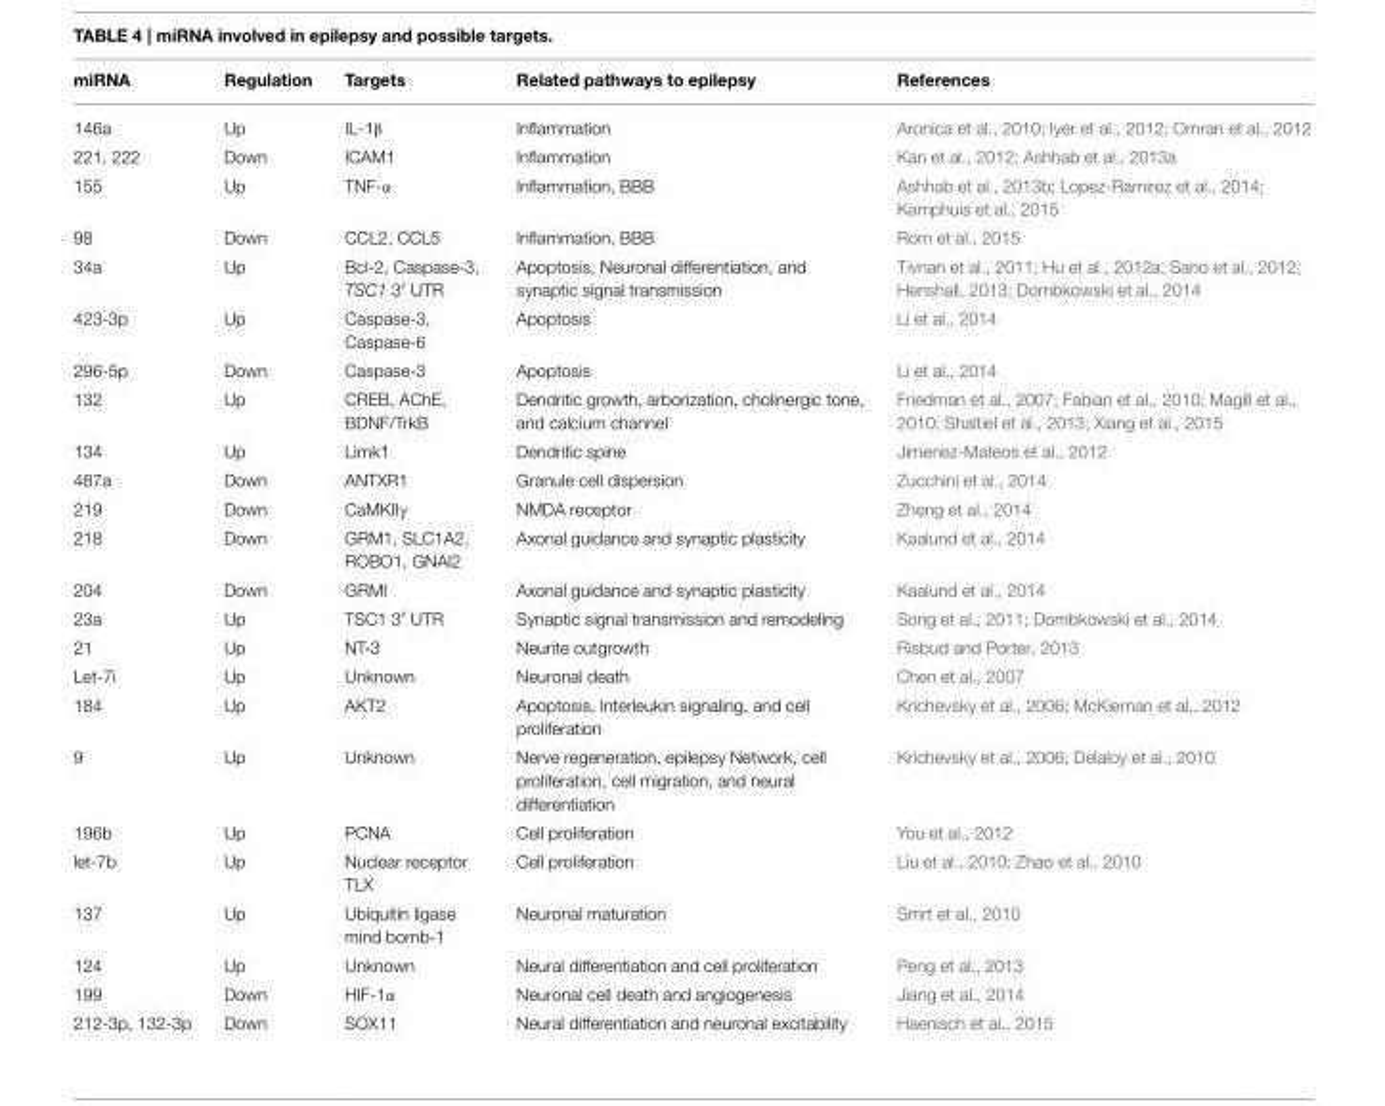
<table><thead><tr><td>miRNA</td><td>Regulation</td><td>Targets</td><td>Related pathways to epilepsy</td><td>References</td></tr></thead><tbody><tr><td>146a</td><td>Up</td><td>IL-1β</td><td>Inflammation</td><td>Aronica et al., 2010; Iyer et al., 2012; Omran et al., 2012</td></tr><tr><td>221, 222</td><td>Down</td><td>ICAM1</td><td>Inflammation</td><td>Kan et al., 2012; Ashhab et al., 2013a</td></tr><tr><td>155</td><td>Up</td><td>TNF-α</td><td>Inflammation, BBB</td><td>Ashhab et al., 2013b; Lopez-Ramirez et al., 2014; Kamphuis et al., 2015</td></tr><tr><td>98</td><td>Down</td><td>CCL2, CCL5</td><td>Inflammation, BBB</td><td>Rom et al., 2015</td></tr><tr><td>34a</td><td>Up</td><td>Bcl-2, Caspase-3, TSC1 3′ UTR</td><td>Apoptosis, Neuronal differentiation, and synaptic signal transmission</td><td>Tivnan et al., 2011; Hu et al., 2012a; Sano et al., 2012; Henshall, 2013; Dombkowski et al., 2014</td></tr><tr><td>423-3p</td><td>Up</td><td>Caspase-3, Caspase-6</td><td>Apoptosis</td><td>Li et al., 2014</td></tr><tr><td>296-5p</td><td>Down</td><td>Caspase-3</td><td>Apoptosis</td><td>Li et al., 2014</td></tr><tr><td>132</td><td>Up</td><td>CREB, AChE, BDNF/TrkB</td><td>Dendritic growth, arborization, cholinergic tone, and calcium channel</td><td>Friedman et al., 2007; Fabian et al., 2010; Magill et al., 2010; Shaltiel et al., 2013; Xiang et al., 2015</td></tr><tr><td>134</td><td>Up</td><td>Limk1</td><td>Dendritic spine</td><td>Jimenez-Mateos et al., 2012</td></tr><tr><td>487a</td><td>Down</td><td>ANTXR1</td><td>Granule cell dispersion</td><td>Zucchini et al., 2014</td></tr><tr><td>219</td><td>Down</td><td>CaMKIIγ</td><td>NMDA receptor</td><td>Zheng et al., 2014</td></tr><tr><td>218</td><td>Down</td><td>GRM1, SLC1A2, ROBO1, GNAI2</td><td>Axonal guidance and synaptic plasticity</td><td>Kaalund et al., 2014</td></tr><tr><td>204</td><td>Down</td><td>GRMI</td><td>Axonal guidance and synaptic plasticity</td><td>Kaalund et al., 2014</td></tr><tr><td>23a</td><td>Up</td><td>TSC1 3′ UTR</td><td>Synaptic signal transmission and remodeling</td><td>Song et al., 2011; Dombkowski et al., 2014</td></tr><tr><td>21</td><td>Up</td><td>NT-3</td><td>Neurite outgrowth</td><td>Risbud and Porter, 2013</td></tr><tr><td>Let-7i</td><td>Up</td><td>Unknown</td><td>Neuronal death</td><td>Chen et al., 2007</td></tr><tr><td>184</td><td>Up</td><td>AKT2</td><td>Apoptosis, Interleukin signaling, and cell proliferation</td><td>Krichevsky et al., 2006; McKiernan et al., 2012</td></tr><tr><td>9</td><td>Up</td><td>Unknown</td><td>Nerve regeneration, epilepsy Network, cell proliferation, cell migration, and neural differentiation</td><td>Krichevsky et al., 2006; Delaloy et al., 2010</td></tr><tr><td>196b</td><td>Up</td><td>PCNA</td><td>Cell proliferation</td><td>You et al., 2012</td></tr><tr><td>let-7b</td><td>Up</td><td>Nuclear receptor TLX</td><td>Cell proliferation</td><td>Liu et al., 2010; Zhao et al., 2010</td></tr><tr><td>137</td><td>Up</td><td>Ubiquitin ligase mind bomb-1</td><td>Neuronal maturation</td><td>Smrt et al., 2010</td></tr><tr><td>124</td><td>Up</td><td>Unknown</td><td>Neural differentiation and cell proliferation</td><td>Peng et al., 2013</td></tr><tr><td>199</td><td>Down</td><td>HIF-1α</td><td>Neuronal cell death and angiogenesis</td><td>Jiang et al., 2014</td></tr><tr><td>212-3p, 132-3p</td><td>Down</td><td>SOX11</td><td>Neural differentiation and neuronal excitability</td><td>Haenisch et al., 2015</td></tr></tbody></table>